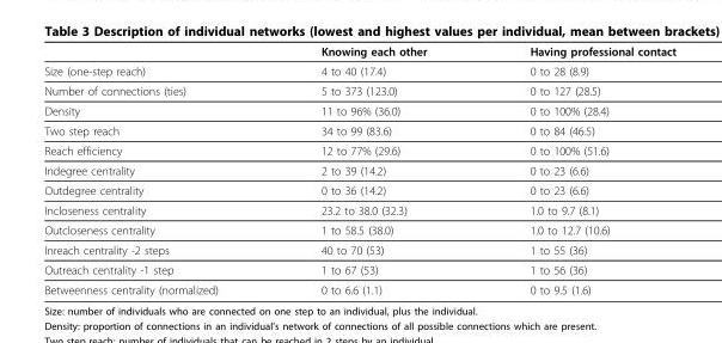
<table><thead><tr><td></td><td>Knowing each other</td><td>Having professional contact</td></tr></thead><tbody><tr><td>Size (one-step reach)</td><td>4 to 40 (17.4)</td><td>0 to 28 (8.9)</td></tr><tr><td>Number of connections (ties)</td><td>5 to 373 (123.0)</td><td>0 to 127 (28.5)</td></tr><tr><td>Density</td><td>11 to 96% (36.0)</td><td>0 to 100% (28.4)</td></tr><tr><td>Two step reach</td><td>34 to 99 (83.6)</td><td>0 to 84 (46.5)</td></tr><tr><td>Reach efficiency</td><td>12 to 77% (29.6)</td><td>0 to 100% (51.6)</td></tr><tr><td>Indegree centrality</td><td>2 to 39 (14.2)</td><td>0 to 23 (6.6)</td></tr><tr><td>Outdegree centrality</td><td>0 to 36 (14.2)</td><td>0 to 23 (6.6)</td></tr><tr><td>Incloseness centrality</td><td>23.2 to 38.0 (32.3)</td><td>1.0 to 9.7 (8.1)</td></tr><tr><td>Outcloseness centrality</td><td>1 to 58.5 (38.0)</td><td>1.0 to 12.7 (10.6)</td></tr><tr><td>Inreach centrality -2 steps</td><td>40 to 70 (53)</td><td>1 to 55 (36)</td></tr><tr><td>Outreach centrality -1 step</td><td>1 to 67 (53)</td><td>1 to 56 (36)</td></tr><tr><td>Betweenness centrality (normalized)</td><td>0 to 6.6 (1.1)</td><td>0 to 9.5 (1.6)</td></tr></tbody></table>